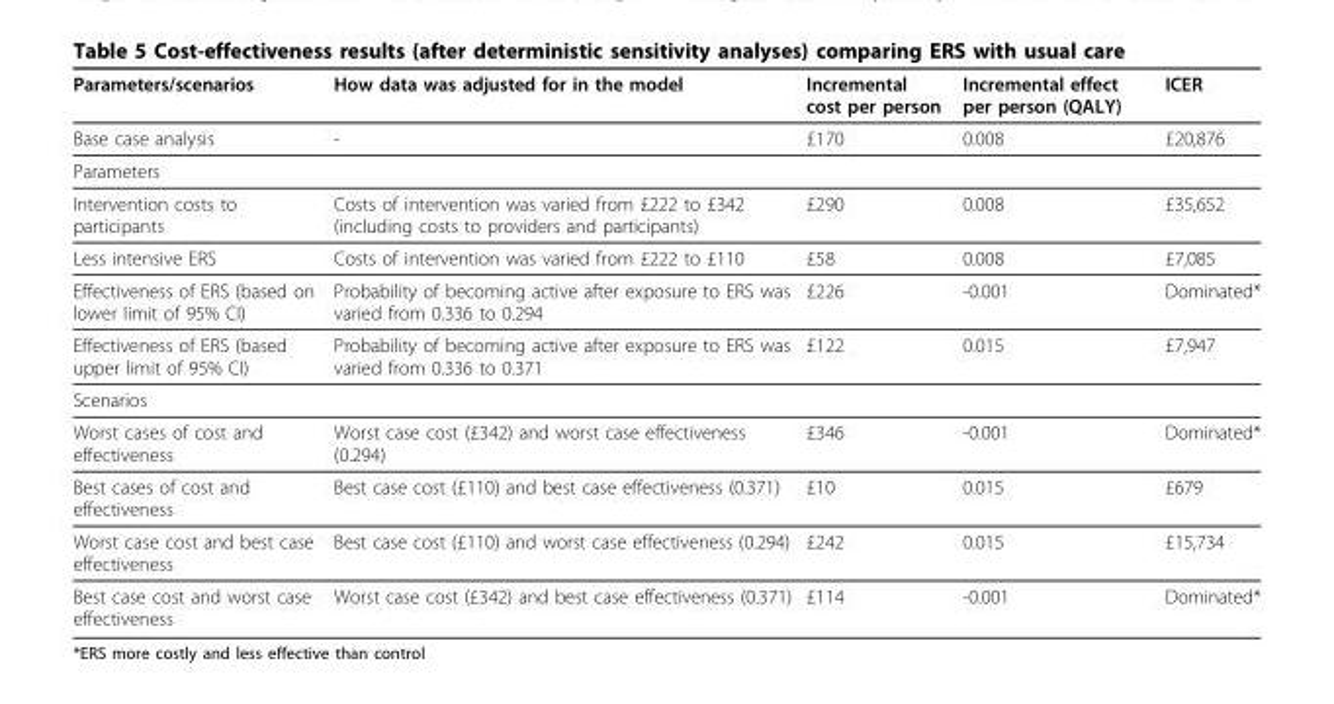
<table><thead><tr><td>Parameters/scenarios</td><td>How data was adjusted for in the model</td><td>Incremental cost per person</td><td>Incremental effect per person (QALY)</td><td>ICER</td></tr></thead><tbody><tr><td>Base case analysis</td><td>-</td><td>£170</td><td>0.008</td><td>£20,876</td></tr><tr><td colspan="5">Parameters</td></tr><tr><td>Intervention costs to participants</td><td>Costs of intervention was varied from £222 to £342 (including costs to providers and participants)</td><td>£290</td><td>0.008</td><td>£35,652</td></tr><tr><td>Less intensive ERS</td><td>Costs of intervention was varied from £222 to £110</td><td>£58</td><td>0.008</td><td>£7,085</td></tr><tr><td>Effectiveness of ERS (based on lower limit of 95% CI)</td><td>Probability of becoming active after exposure to ERS was varied from 0.336 to 0.294</td><td>£226</td><td>-0.001</td><td>Dominated*</td></tr><tr><td>Effectiveness of ERS (based upper limit of 95% CI)</td><td>Probability of becoming active after exposure to ERS was varied from 0.336 to 0.371</td><td>£122</td><td>0.015</td><td>£7,947</td></tr><tr><td colspan="5">Scenarios</td></tr><tr><td>Worst cases of cost and effectiveness</td><td>Worst case cost (£342) and worst case effectiveness (0.294)</td><td>£346</td><td>-0.001</td><td>Dominated*</td></tr><tr><td>Best cases of cost and effectiveness</td><td>Best case cost (£110) and best case effectiveness (0.371)</td><td>£10</td><td>0.015</td><td>£679</td></tr><tr><td>Worst case cost and best case effectiveness</td><td>Best case cost (£110) and worst case effectiveness (0.294)</td><td>£242</td><td>0.015</td><td>£15,734</td></tr><tr><td>Best case cost and worst case effectiveness</td><td>Worst case cost (£342) and best case effectiveness (0.371)</td><td>£114</td><td>-0.001</td><td>Dominated*</td></tr></tbody></table>